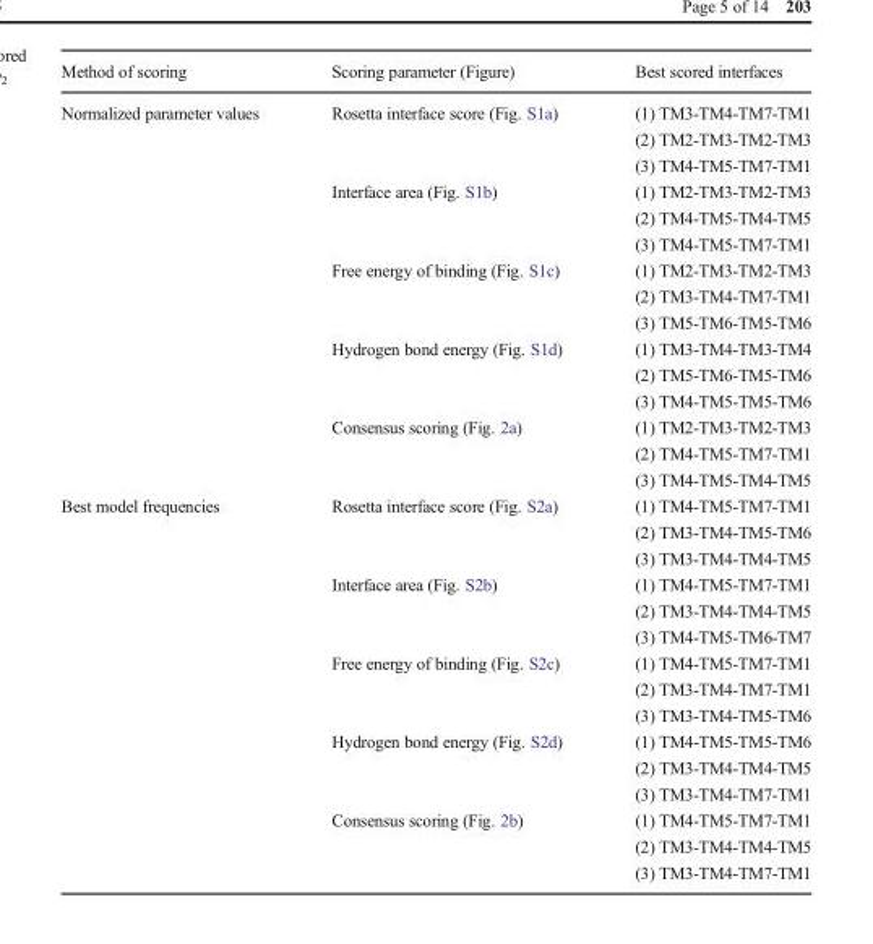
<table><thead><tr><td>Method of scoring</td><td>Scoring parameter (Figure)</td><td>Best scored interfaces</td></tr></thead><tbody><tr><td rowspan="5">Normalized parameter values</td><td>Rosetta interface score (Fig. S1a)</td><td>(1) TM3-TM4-TM7-TM1 (2) TM2-TM3-TM2-TM3 (3) TM4-TM5-TM7-TM1</td></tr><tr><td>Interface area (Fig. S1b)</td><td>(1) TM2-TM3-TM2-TM3 (2) TM4-TM5-TM4-TM5 (3) TM4-TM5-TM7-TM1</td></tr><tr><td>Free energy of binding (Fig. S1c)</td><td>(1) TM2-TM3-TM2-TM3 (2) TM3-TM4-TM7-TM1 (3) TM5-TM6-TM5-TM6</td></tr><tr><td>Hydrogen bond energy (Fig. S1d)</td><td>(1) TM3-TM4-TM3-TM4 (2) TM5-TM6-TM5-TM6 (3) TM4-TM5-TM5-TM6</td></tr><tr><td>Consensus scoring (Fig. 2a)</td><td>(1) TM2-TM3-TM2-TM3 (2) TM4-TM5-TM7-TM1 (3) TM4-TM5-TM4-TM5</td></tr><tr><td rowspan="5">Best model frequencies</td><td>Rosetta interface score (Fig. S2a)</td><td>(1) TM4-TM5-TM7-TM1 (2) TM3-TM4-TM5-TM6 (3) TM3-TM4-TM4-TM5</td></tr><tr><td>Interface area (Fig. S2b)</td><td>(1) TM4-TM5-TM7-TM1 (2) TM3-TM4-TM4-TM5 (3) TM4-TM5-TM6-TM7</td></tr><tr><td>Free energy of binding (Fig. S2c)</td><td>(1) TM4-TM5-TM7-TM1 (2) TM3-TM4-TM7-TM1 (3) TM3-TM4-TM5-TM6</td></tr><tr><td>Hydrogen bond energy (Fig. S2d)</td><td>(1) TM4-TM5-TM5-TM6 (2) TM3-TM4-TM4-TM5 (3) TM3-TM4-TM7-TM1</td></tr><tr><td>Consensus scoring (Fig. 2b)</td><td>(1) TM4-TM5-TM7-TM1 (2) TM3-TM4-TM4-TM5 (3) TM3-TM4-TM7-TM1</td></tr></tbody></table>